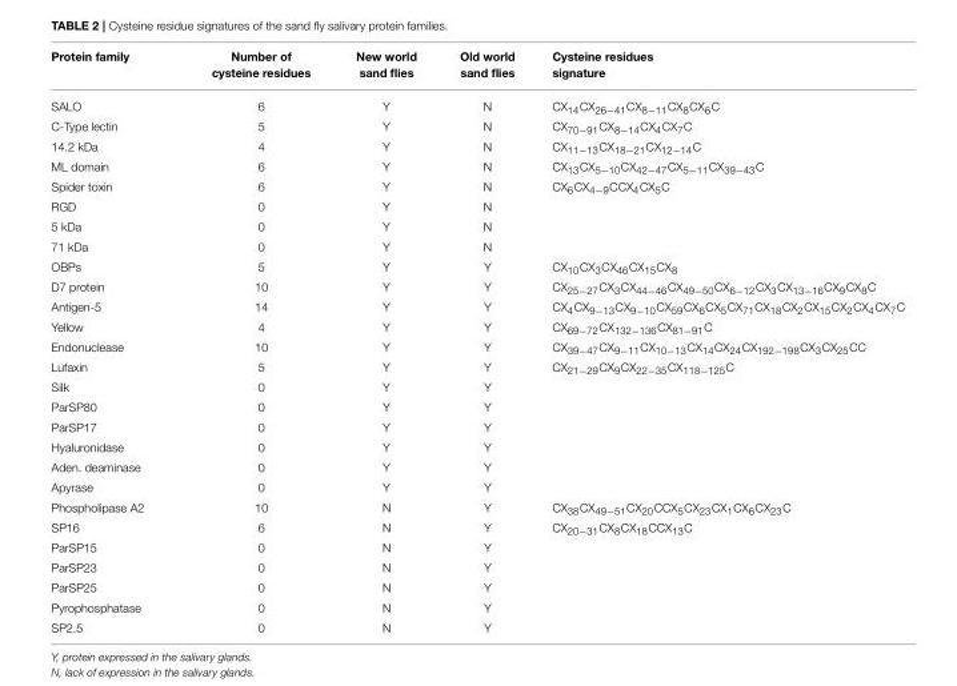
<table><thead><tr><td>Protein family</td><td>Number of cysteine residues</td><td>New world sand flies</td><td>Old world sand flies</td><td>Cysteine residues signature</td></tr></thead><tbody><tr><td>SALO</td><td>6</td><td>Y</td><td>N</td><td>CX<sub>14</sub>CX<sub>26−41</sub>CX<sub>8−11</sub>CX<sub>8</sub>CX<sub>6</sub>C</td></tr><tr><td>C-Type lectin</td><td>5</td><td>Y</td><td>N</td><td>CX<sub>70−91</sub>CX<sub>8−14</sub>CX<sub>4</sub>CX<sub>7</sub>C</td></tr><tr><td>14.2 kDa</td><td>4</td><td>Y</td><td>N</td><td>CX<sub>11−13</sub>CX<sub>18−21</sub>CX<sub>12−14</sub>C</td></tr><tr><td>ML domain</td><td>6</td><td>Y</td><td>N</td><td>CX<sub>13</sub>CX<sub>5−10</sub>CX<sub>42−47</sub>CX<sub>5−11</sub>CX<sub>39−43</sub>C</td></tr><tr><td>Spider toxin</td><td>6</td><td>Y</td><td>N</td><td>CX<sub>6</sub>CX<sub>4−9</sub>CCX<sub>4</sub>CX<sub>5</sub>C</td></tr><tr><td>RGD</td><td>0</td><td>Y</td><td>N</td><td></td></tr><tr><td>5 kDa</td><td>0</td><td>Y</td><td>N</td><td></td></tr><tr><td>71 kDa</td><td>0</td><td>Y</td><td>N</td><td></td></tr><tr><td>OBPs</td><td>5</td><td>Y</td><td>Y</td><td>CX<sub>10</sub>CX<sub>3</sub>CX<sub>46</sub>CX<sub>15</sub>CX<sub>8</sub></td></tr><tr><td>D7 protein</td><td>10</td><td>Y</td><td>Y</td><td>CX<sub>25−27</sub>CX<sub>3</sub>CX<sub>44−46</sub>CX<sub>49−50</sub>CX<sub>6−12</sub>CX<sub>3</sub>CX<sub>13−16</sub>CX<sub>9</sub>CX<sub>8</sub>C</td></tr><tr><td>Antigen-5</td><td>14</td><td>Y</td><td>Y</td><td>CX<sub>4</sub>CX<sub>9−13</sub>CX<sub>9−10</sub>CX<sub>59</sub>CX<sub>6</sub>CX<sub>5</sub>CX<sub>71</sub>CX<sub>18</sub>CX<sub>2</sub>CX<sub>15</sub>CX<sub>2</sub>CX<sub>4</sub>CX<sub>7</sub>C</td></tr><tr><td>Yellow</td><td>4</td><td>Y</td><td>Y</td><td>CX<sub>69−72</sub>CX<sub>132−136</sub>CX<sub>81−91</sub>C</td></tr><tr><td>Endonuclease</td><td>10</td><td>Y</td><td>Y</td><td>CX<sub>39−47</sub>CX<sub>9−11</sub>CX<sub>10−13</sub>CX<sub>14</sub>CX<sub>24</sub>CX<sub>192−198</sub>CX<sub>3</sub>CX<sub>25</sub>CC</td></tr><tr><td>Lufaxin</td><td>5</td><td>Y</td><td>Y</td><td>CX<sub>21−29</sub>CX<sub>9</sub>CX<sub>22−35</sub>CX<sub>118−125</sub>C</td></tr><tr><td>Silk</td><td>0</td><td>Y</td><td>Y</td><td></td></tr><tr><td>ParSP80</td><td>0</td><td>Y</td><td>Y</td><td></td></tr><tr><td>ParSP17</td><td>0</td><td>Y</td><td>Y</td><td></td></tr><tr><td>Hyaluronidase</td><td>0</td><td>Y</td><td>Y</td><td></td></tr><tr><td>Aden. deaminase</td><td>0</td><td>Y</td><td>Y</td><td></td></tr><tr><td>Apyrase</td><td>0</td><td>Y</td><td>Y</td><td></td></tr><tr><td>Phospholipase A2</td><td>10</td><td>N</td><td>Y</td><td>CX<sub>38</sub>CX<sub>49−51</sub>CX<sub>20</sub>CCX<sub>5</sub>CX<sub>23</sub>CX<sub>1</sub>CX<sub>6</sub>CX<sub>23</sub>C</td></tr><tr><td>SP16</td><td>6</td><td>N</td><td>Y</td><td>CX<sub>20−31</sub>CX<sub>8</sub>CX<sub>18</sub>CCX<sub>13</sub>C</td></tr><tr><td>ParSP15</td><td>0</td><td>N</td><td>Y</td><td></td></tr><tr><td>ParSP23</td><td>0</td><td>N</td><td>Y</td><td></td></tr><tr><td>ParSP25</td><td>0</td><td>N</td><td>Y</td><td></td></tr><tr><td>Pyrophosphatase</td><td>0</td><td>N</td><td>Y</td><td></td></tr><tr><td>SP2.5</td><td>0</td><td>N</td><td>Y</td><td></td></tr></tbody></table>